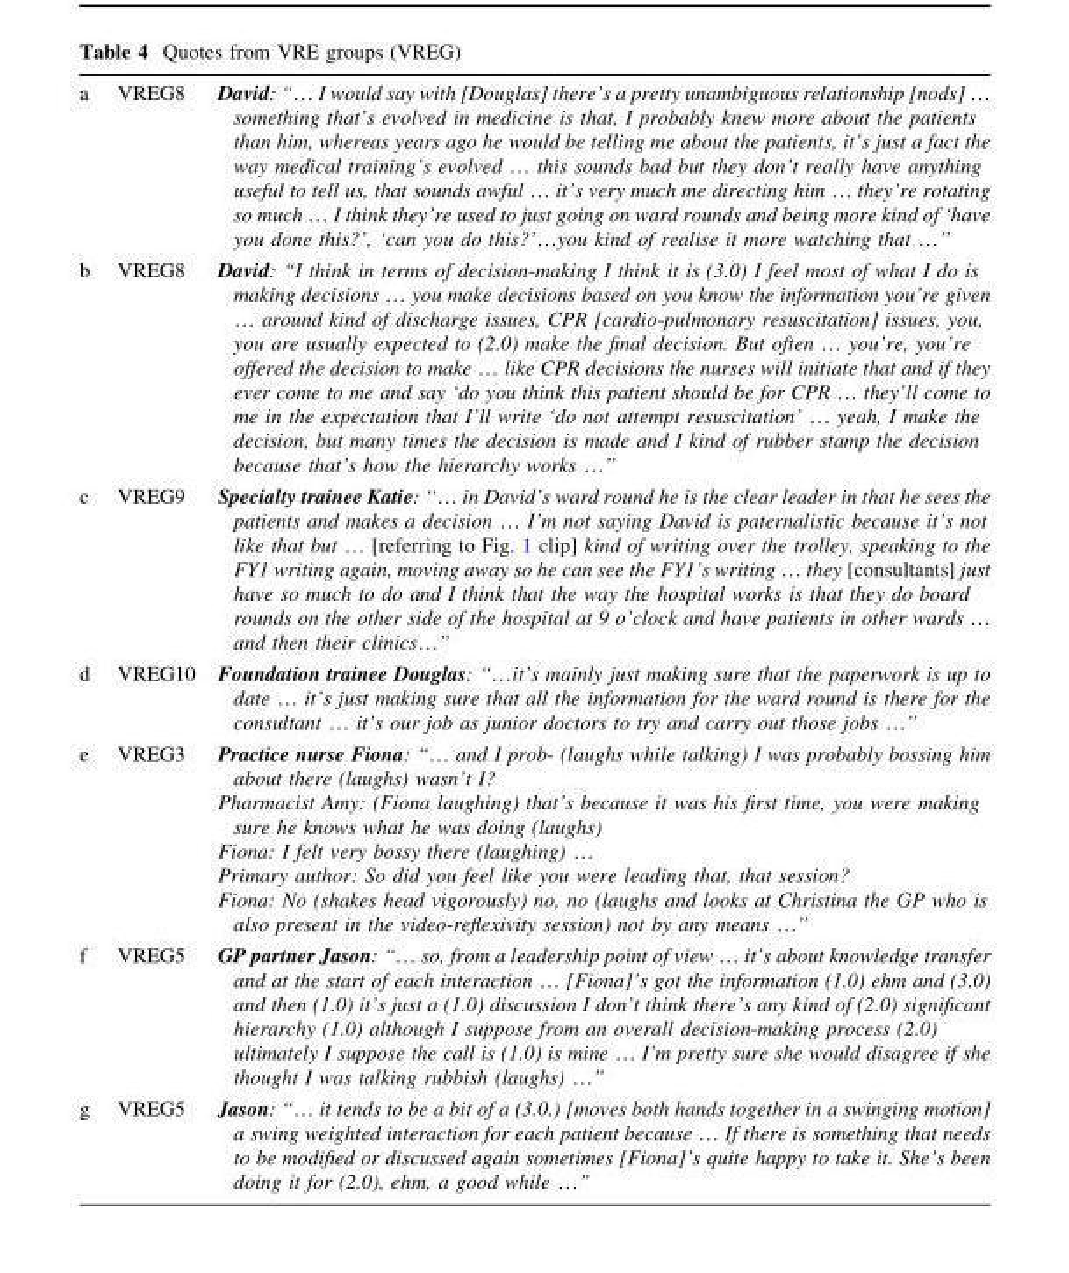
<table><tbody><tr><td>a</td><td>VREG8</td><td>David: ‘‘… I would say with [Douglas] there’s a pretty unambiguous relationship [nods] … something that’s evolved in medicine is that, I probably knew more about the patients than him, whereas years ago he would be telling me about the patients, it’s just a fact the way medical training’s evolved … this sounds bad but they don’t really have anything useful to tell us, that sounds awful … it’s very much me directing him … they’re rotating so much … I think they’re used to just going on ward rounds and being more kind of ‘have you done this?’, ‘can you do this?’…you kind of realise it more watching that …’’</td></tr><tr><td>b</td><td>VREG8</td><td>David: ‘‘I think in terms of decision-making I think it is (3.0) I feel most of what I do is making decisions … you make decisions based on you know the information you’re given … around kind of discharge issues, CPR [cardio-pulmonary resuscitation] issues, you, you are usually expected to (2.0) make the final decision. But often … you’re, you’re offered the decision to make … like CPR decisions the nurses will initiate that and if they ever come to me and say ‘do you think this patient should be for CPR … they’ll come to me in the expectation that I’ll write ‘do not attempt resuscitation’ … yeah, I make the decision, but many times the decision is made and I kind of rubber stamp the decision because that’s how the hierarchy works …’’</td></tr><tr><td>c</td><td>VREG9</td><td>Specialty trainee Katie: ‘‘… in David’s ward round he is the clear leader in that he sees the patients and makes a decision … I’m not saying David is paternalistic because it’s not like that but … [referring to Fig. 1 clip] kind of writing over the trolley, speaking to the FY1 writing again, moving away so he can see the FY1’s writing … they [consultants] just have so much to do and I think that the way the hospital works is that they do board rounds on the other side of the hospital at 9 o’clock and have patients in other wards … and then their clinics…’’</td></tr><tr><td>d</td><td>VREG10</td><td>Foundation trainee Douglas: ‘‘…it’s mainly just making sure that the paperwork is up to date … it’s just making sure that all the information for the ward round is there for the consultant … it’s our job as junior doctors to try and carry out those jobs …’’</td></tr><tr><td>e</td><td>VREG3</td><td>Practice nurse Fiona: ‘‘… and I prob- (laughs while talking) I was probably bossing him about there (laughs) wasn’t I? Pharmacist Amy: (Fiona laughing) that’s because it was his first time, you were making sure he knows what he was doing (laughs) Fiona: I felt very bossy there (laughing) … Primary author: So did you feel like you were leading that, that session? Fiona: No (shakes head vigorously) no, no (laughs and looks at Christina the GP who is also present in the video-reflexivity session) not by any means …’’</td></tr><tr><td>f</td><td>VREG5</td><td>GP partner Jason: ‘‘… so, from a leadership point of view … it’s about knowledge transfer and at the start of each interaction … [Fiona]’s got the information (1.0) ehm and (3.0) and then (1.0) it’s just a (1.0) discussion I don’t think there’s any kind of (2.0) significant hierarchy (1.0) although I suppose from an overall decision-making process (2.0) ultimately I suppose the call is (1.0) is mine … I’m pretty sure she would disagree if she thought I was talking rubbish (laughs) …’’</td></tr><tr><td>g</td><td>VREG5</td><td>Jason: ‘‘… it tends to be a bit of a (3.0.) [moves both hands together in a swinging motion] a swing weighted interaction for each patient because … If there is something that needs to be modified or discussed again sometimes [Fiona]’s quite happy to take it. She’s been doing it for (2.0), ehm, a good while …’’</td></tr></tbody></table>